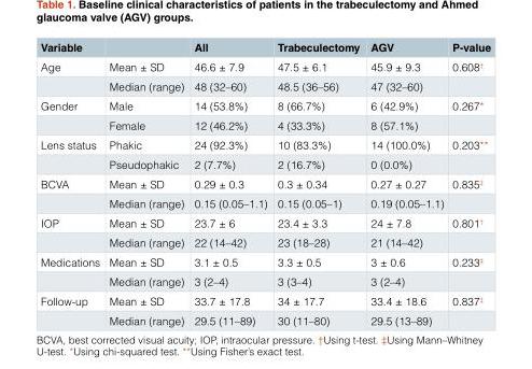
<table><thead><tr><td>Variable</td><td></td><td>All</td><td>Trabeculectomy</td><td>AGV</td><td>P-value</td></tr></thead><tbody><tr><td rowspan="2">Age</td><td>Mean ± SD</td><td>46.6 ± 7.9</td><td>47.5 ± 6.1</td><td>45.9 ± 9.3</td><td>0.608<sup>†</sup></td></tr><tr><td>Median (range)</td><td>48 (32–60)</td><td>48.5 (36–56)</td><td>47 (32–60)</td><td></td></tr><tr><td rowspan="2">Gender</td><td>Male</td><td>14 (53.8%)</td><td>8 (66.7%)</td><td>6 (42.9%)</td><td>0.267*</td></tr><tr><td>Female</td><td>12 (46.2%)</td><td>4 (33.3%)</td><td>8 (57.1%)</td><td></td></tr><tr><td rowspan="2">Lens status</td><td>Phakic</td><td>24 (92.3%)</td><td>10 (83.3%)</td><td>14 (100.0%)</td><td>0.203**</td></tr><tr><td>Pseudophakic</td><td>2 (7.7%)</td><td>2 (16.7%)</td><td>0 (0.0%)</td><td></td></tr><tr><td rowspan="2">BCVA</td><td>Mean ± SD</td><td>0.29 ± 0.3</td><td>0.3 ± 0.34</td><td>0.27 ± 0.27</td><td>0.835<sup>‡</sup></td></tr><tr><td>Median (range)</td><td>0.15 (0.05–1.1)</td><td>0.15 (0.05–1)</td><td>0.19 (0.05–1.1)</td><td></td></tr><tr><td rowspan="2">IOP</td><td>Mean ± SD</td><td>23.7 ± 6</td><td>23.4 ± 3.3</td><td>24 ± 7.8</td><td>0.801<sup>†</sup></td></tr><tr><td>Median (range)</td><td>22 (14–42)</td><td>23 (18–28)</td><td>21 (14–42)</td><td></td></tr><tr><td rowspan="2">Medications</td><td>Mean ± SD</td><td>3.1 ± 0.5</td><td>3.3 ± 0.5</td><td>3 ± 0.6</td><td>0.233<sup>‡</sup></td></tr><tr><td>Median (range)</td><td>3 (2–4)</td><td>3 (3–4)</td><td>3 (2–4)</td><td></td></tr><tr><td rowspan="2">Follow-up</td><td>Mean ± SD</td><td>33.7 ± 17.8</td><td>34 ± 17.7</td><td>33.4 ± 18.6</td><td>0.837<sup>‡</sup></td></tr><tr><td>Median (range)</td><td>29.5 (11–89)</td><td>30 (11–80)</td><td>29.5 (13–89)</td><td></td></tr></tbody></table>